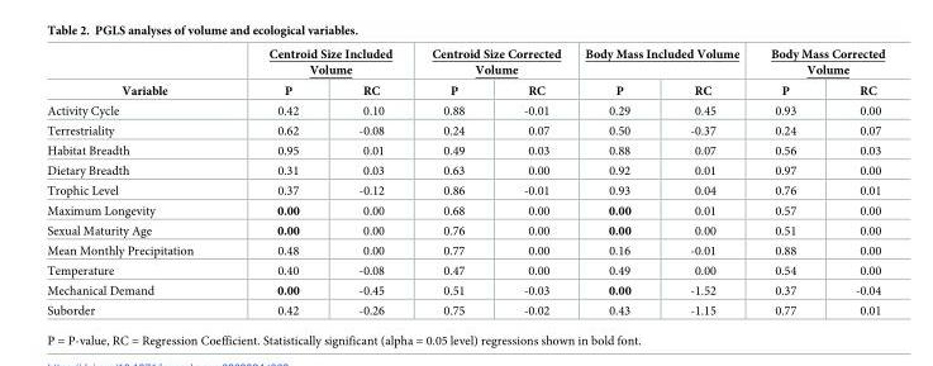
<table><thead><tr><td rowspan="2">Variable</td><td colspan="2">Centroid Size Included Volume</td><td colspan="2">Centroid Size Corrected Volume</td><td colspan="2">Body Mass Included Volume</td><td colspan="2">Body Mass Corrected Volume</td></tr><tr><td>P</td><td>RC</td><td>P</td><td>RC</td><td>P</td><td>RC</td><td>P</td><td>RC</td></tr></thead><tbody><tr><td>Activity Cycle</td><td>0.42</td><td>0.10</td><td>0.88</td><td>-0.01</td><td>0.29</td><td>0.45</td><td>0.93</td><td>0.00</td></tr><tr><td>Terrestriality</td><td>0.62</td><td>-0.08</td><td>0.24</td><td>0.07</td><td>0.50</td><td>-0.37</td><td>0.24</td><td>0.07</td></tr><tr><td>Habitat Breadth</td><td>0.95</td><td>0.01</td><td>0.49</td><td>0.03</td><td>0.88</td><td>0.07</td><td>0.56</td><td>0.03</td></tr><tr><td>Dietary Breadth</td><td>0.31</td><td>0.03</td><td>0.63</td><td>0.00</td><td>0.92</td><td>0.01</td><td>0.97</td><td>0.00</td></tr><tr><td>Trophic Level</td><td>0.37</td><td>-0.12</td><td>0.86</td><td>-0.01</td><td>0.93</td><td>0.04</td><td>0.76</td><td>0.01</td></tr><tr><td>Maximum Longevity</td><td>0.00</td><td>0.00</td><td>0.68</td><td>0.00</td><td>0.00</td><td>0.01</td><td>0.57</td><td>0.00</td></tr><tr><td>Sexual Maturity Age</td><td>0.00</td><td>0.00</td><td>0.76</td><td>0.00</td><td>0.00</td><td>0.00</td><td>0.51</td><td>0.00</td></tr><tr><td>Mean Monthly Precipitation</td><td>0.48</td><td>0.00</td><td>0.77</td><td>0.00</td><td>0.16</td><td>-0.01</td><td>0.88</td><td>0.00</td></tr><tr><td>Temperature</td><td>0.40</td><td>-0.08</td><td>0.47</td><td>0.00</td><td>0.49</td><td>0.00</td><td>0.54</td><td>0.00</td></tr><tr><td>Mechanical Demand</td><td>0.00</td><td>-0.45</td><td>0.51</td><td>-0.03</td><td>0.00</td><td>-1.52</td><td>0.37</td><td>-0.04</td></tr><tr><td>Suborder</td><td>0.42</td><td>-0.26</td><td>0.75</td><td>-0.02</td><td>0.43</td><td>-1.15</td><td>0.77</td><td>0.01</td></tr></tbody></table>